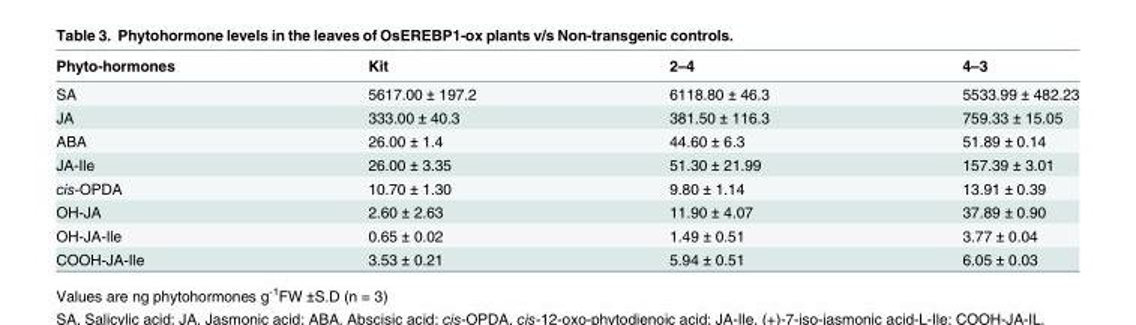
<table><thead><tr><td>Phyto-hormones</td><td>Kit</td><td>2–4</td><td>4–3</td></tr></thead><tbody><tr><td>SA</td><td>5617.00 ± 197.2</td><td>6118.80 ± 46.3</td><td>5533.99 ± 482.23</td></tr><tr><td>JA</td><td>333.00 ± 40.3</td><td>381.50 ± 116.3</td><td>759.33 ± 15.05</td></tr><tr><td>ABA</td><td>26.00 ± 1.4</td><td>44.60 ± 6.3</td><td>51.89 ± 0.14</td></tr><tr><td>JA-Ile</td><td>26.00 ± 3.35</td><td>51.30 ± 21.99</td><td>157.39 ± 3.01</td></tr><tr><td>cis-OPDA</td><td>10.70 ± 1.30</td><td>9.80 ± 1.14</td><td>13.91 ± 0.39</td></tr><tr><td>OH-JA</td><td>2.60 ± 2.63</td><td>11.90 ± 4.07</td><td>37.89 ± 0.90</td></tr><tr><td>OH-JA-Ile</td><td>0.65 ± 0.02</td><td>1.49 ± 0.51</td><td>3.77 ± 0.04</td></tr><tr><td>COOH-JA-Ile</td><td>3.53 ± 0.21</td><td>5.94 ± 0.51</td><td>6.05 ± 0.03</td></tr></tbody></table>